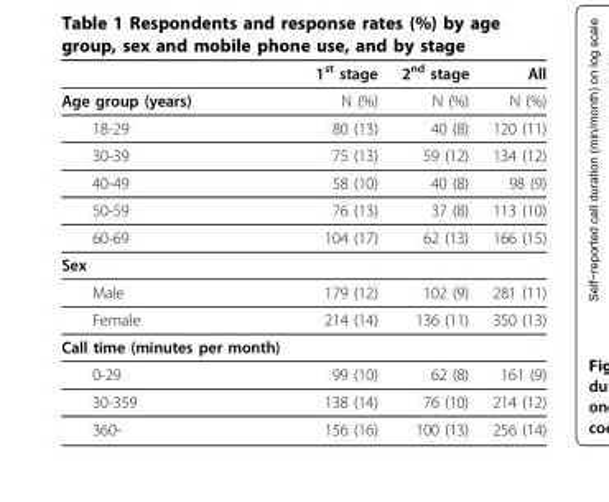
<table><thead><tr><td></td><td>1<sup>st</sup> stage</td><td>2<sup>nd</sup> stage</td><td>All</td></tr></thead><tbody><tr><td>Age group (years)</td><td>N (%)</td><td>N (%)</td><td>N (%)</td></tr><tr><td>18-29</td><td>80 (13)</td><td>40 (8)</td><td>120 (11)</td></tr><tr><td>30-39</td><td>75 (13)</td><td>59 (12)</td><td>134 (12)</td></tr><tr><td>40-49</td><td>58 (10)</td><td>40 (8)</td><td>98 (9)</td></tr><tr><td>50-59</td><td>76 (13)</td><td>37 (8)</td><td>113 (10)</td></tr><tr><td>60-69</td><td>104 (17)</td><td>62 (13)</td><td>166 (15)</td></tr><tr><td colspan="4">Sex</td></tr><tr><td>Male</td><td>179 (12)</td><td>102 (9)</td><td>281 (11)</td></tr><tr><td>Female</td><td>214 (14)</td><td>136 (11)</td><td>350 (13)</td></tr><tr><td colspan="4">Call time (minutes per month)</td></tr><tr><td>0-29</td><td>99 (10)</td><td>62 (8)</td><td>161 (9)</td></tr><tr><td>30-359</td><td>138 (14)</td><td>76 (10)</td><td>214 (12)</td></tr><tr><td>360-</td><td>156 (16)</td><td>100 (13)</td><td>256 (14)</td></tr></tbody></table>